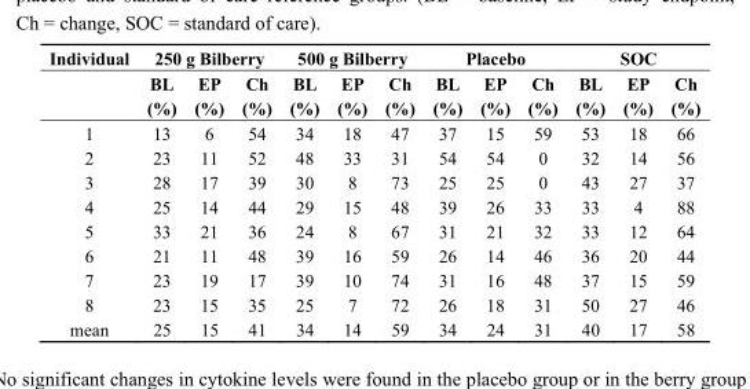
<table><thead><tr><td rowspan="2">Individual</td><td colspan="3">250 g Bilberry</td><td colspan="3">500 g Bilberry</td><td colspan="3">Placebo</td><td colspan="3">SOC</td></tr><tr><td>BL (%)</td><td>EP (%)</td><td>Ch (%)</td><td>BL (%)</td><td>EP (%)</td><td>Ch (%)</td><td>BL (%)</td><td>EP (%)</td><td>Ch (%)</td><td>BL (%)</td><td>EP (%)</td><td>Ch (%)</td></tr></thead><tbody><tr><td>1</td><td>13</td><td>6</td><td>54</td><td>34</td><td>18</td><td>47</td><td>37</td><td>15</td><td>59</td><td>53</td><td>18</td><td>66</td></tr><tr><td>2</td><td>23</td><td>11</td><td>52</td><td>48</td><td>33</td><td>31</td><td>54</td><td>54</td><td>0</td><td>32</td><td>14</td><td>56</td></tr><tr><td>3</td><td>28</td><td>17</td><td>39</td><td>30</td><td>8</td><td>73</td><td>25</td><td>25</td><td>0</td><td>43</td><td>27</td><td>37</td></tr><tr><td>4</td><td>25</td><td>14</td><td>44</td><td>29</td><td>15</td><td>48</td><td>39</td><td>26</td><td>33</td><td>33</td><td>4</td><td>88</td></tr><tr><td>5</td><td>33</td><td>21</td><td>36</td><td>24</td><td>8</td><td>67</td><td>31</td><td>21</td><td>32</td><td>33</td><td>12</td><td>64</td></tr><tr><td>6</td><td>21</td><td>11</td><td>48</td><td>39</td><td>16</td><td>59</td><td>26</td><td>14</td><td>46</td><td>36</td><td>20</td><td>44</td></tr><tr><td>7</td><td>23</td><td>19</td><td>17</td><td>39</td><td>10</td><td>74</td><td>31</td><td>16</td><td>48</td><td>37</td><td>15</td><td>59</td></tr><tr><td>8</td><td>23</td><td>15</td><td>35</td><td>25</td><td>7</td><td>72</td><td>26</td><td>18</td><td>31</td><td>50</td><td>27</td><td>46</td></tr><tr><td>mean</td><td>25</td><td>15</td><td>41</td><td>34</td><td>14</td><td>59</td><td>34</td><td>24</td><td>31</td><td>40</td><td>17</td><td>58</td></tr></tbody></table>